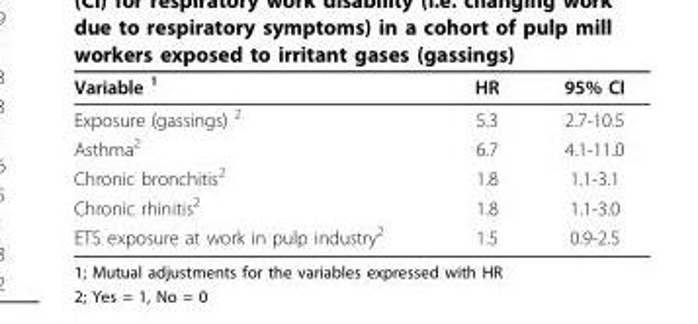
<table><thead><tr><td>Variable <sup>1</sup></td><td>HR</td><td>95% CI</td></tr></thead><tbody><tr><td>Exposure (gassings) <sup>2</sup></td><td>5.3</td><td>2.7-10.5</td></tr><tr><td>Asthma<sup>2</sup></td><td>6.7</td><td>4.1-11.0</td></tr><tr><td>Chronic bronchitis<sup>2</sup></td><td>1.8</td><td>1.1-3.1</td></tr><tr><td>Chronic rhinitis<sup>2</sup></td><td>1.8</td><td>1.1-3.0</td></tr><tr><td>ETS exposure at work in pulp industry<sup>2</sup></td><td>1.5</td><td>0.9-2.5</td></tr></tbody></table>